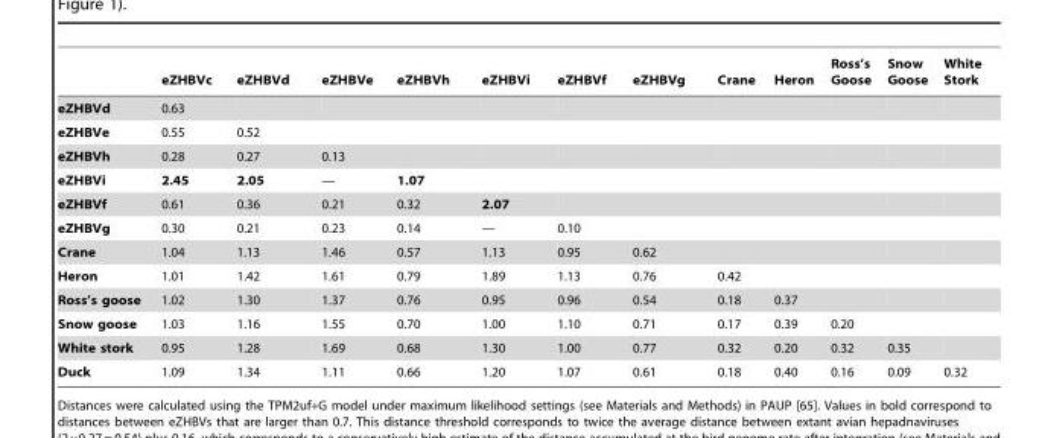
<table><thead><tr><td></td><td>eZHBVc</td><td>eZHBVd</td><td>eZHBVe</td><td>eZHBVh</td><td>eZHBVi</td><td>eZHBVf</td><td>eZHBVg</td><td>Crane</td><td>Heron</td><td>Ross’s Goose</td><td>Snow Goose</td><td>White Stork</td></tr></thead><tbody><tr><td>eZHBVd</td><td>0.63</td><td></td><td></td><td></td><td></td><td></td><td></td><td></td><td></td><td></td><td></td><td></td></tr><tr><td>eZHBVe</td><td>0.55</td><td>0.52</td><td></td><td></td><td></td><td></td><td></td><td></td><td></td><td></td><td></td><td></td></tr><tr><td>eZHBVh</td><td>0.28</td><td>0.27</td><td>0.13</td><td></td><td></td><td></td><td></td><td></td><td></td><td></td><td></td><td></td></tr><tr><td>eZHBVi</td><td>2.45</td><td>2.05</td><td>—</td><td>1.07</td><td></td><td></td><td></td><td></td><td></td><td></td><td></td><td></td></tr><tr><td>eZHBVf</td><td>0.61</td><td>0.36</td><td>0.21</td><td>0.32</td><td>2.07</td><td></td><td></td><td></td><td></td><td></td><td></td><td></td></tr><tr><td>eZHBVg</td><td>0.30</td><td>0.21</td><td>0.23</td><td>0.14</td><td>—</td><td>0.10</td><td></td><td></td><td></td><td></td><td></td><td></td></tr><tr><td>Crane</td><td>1.04</td><td>1.13</td><td>1.46</td><td>0.57</td><td>1.13</td><td>0.95</td><td>0.62</td><td></td><td></td><td></td><td></td><td></td></tr><tr><td>Heron</td><td>1.01</td><td>1.42</td><td>1.61</td><td>0.79</td><td>1.89</td><td>1.13</td><td>0.76</td><td>0.42</td><td></td><td></td><td></td><td></td></tr><tr><td>Ross’s goose</td><td>1.02</td><td>1.30</td><td>1.37</td><td>0.76</td><td>0.95</td><td>0.96</td><td>0.54</td><td>0.18</td><td>0.37</td><td></td><td></td><td></td></tr><tr><td>Snow goose</td><td>1.03</td><td>1.16</td><td>1.55</td><td>0.70</td><td>1.00</td><td>1.10</td><td>0.71</td><td>0.17</td><td>0.39</td><td>0.20</td><td></td><td></td></tr><tr><td>White stork</td><td>0.95</td><td>1.28</td><td>1.69</td><td>0.68</td><td>1.30</td><td>1.00</td><td>0.77</td><td>0.32</td><td>0.20</td><td>0.32</td><td>0.35</td><td></td></tr><tr><td>Duck</td><td>1.09</td><td>1.34</td><td>1.11</td><td>0.66</td><td>1.20</td><td>1.07</td><td>0.61</td><td>0.18</td><td>0.40</td><td>0.16</td><td>0.09</td><td>0.32</td></tr></tbody></table>